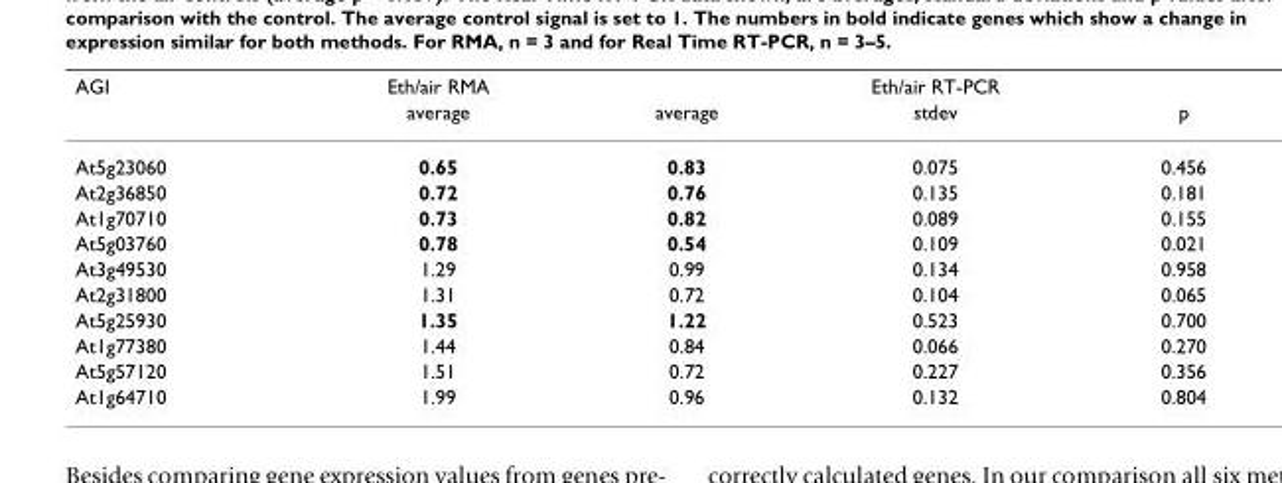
<table><thead><tr><td rowspan="2">AGI</td><td rowspan="2">Eth/air RMA average</td><td colspan="3">Eth/air RT-PCR</td></tr><tr><td>average</td><td>stdev</td><td>p</td></tr></thead><tbody><tr><td>At5g23060</td><td>0.65</td><td>0.83</td><td>0.075</td><td>0.456</td></tr><tr><td>At2g36850</td><td>0.72</td><td>0.76</td><td>0.135</td><td>0.181</td></tr><tr><td>At1g70710</td><td>0.73</td><td>0.82</td><td>0.089</td><td>0.155</td></tr><tr><td>At5g03760</td><td>0.78</td><td>0.54</td><td>0.109</td><td>0.021</td></tr><tr><td>At3g49530</td><td>1.29</td><td>0.99</td><td>0.134</td><td>0.958</td></tr><tr><td>At2g31800</td><td>1.31</td><td>0.72</td><td>0.104</td><td>0.065</td></tr><tr><td>At5g25930</td><td>1.35</td><td>1.22</td><td>0.523</td><td>0.700</td></tr><tr><td>At1g77380</td><td>1.44</td><td>0.84</td><td>0.066</td><td>0.270</td></tr><tr><td>At5g57120</td><td>1.51</td><td>0.72</td><td>0.227</td><td>0.356</td></tr><tr><td>At1g64710</td><td>1.99</td><td>0.96</td><td>0.132</td><td>0.804</td></tr></tbody></table>